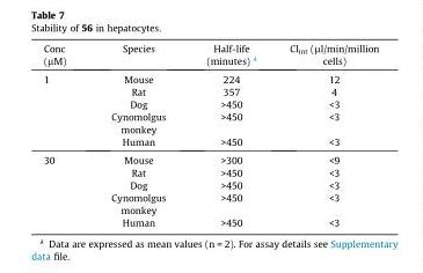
<table><thead><tr><td>Conc (μM)</td><td>Species</td><td>Half-life (minutes) a</td><td>Cl<sub>int</sub> (μl/min/million cells)</td></tr></thead><tbody><tr><td rowspan="5">1</td><td>Mouse</td><td>224</td><td>12</td></tr><tr><td>Rat</td><td>357</td><td>4</td></tr><tr><td>Dog</td><td>&gt;450</td><td>&lt;3</td></tr><tr><td>Cynomolgus monkey</td><td>&gt;450</td><td>&lt;3</td></tr><tr><td>Human</td><td>&gt;450</td><td>&lt;3</td></tr><tr><td rowspan="5">30</td><td>Mouse</td><td>&gt;300</td><td>&lt;9</td></tr><tr><td>Rat</td><td>&gt;450</td><td>&lt;3</td></tr><tr><td>Dog</td><td>&gt;450</td><td>&lt;3</td></tr><tr><td>Cynomolgus monkey</td><td>&gt;450</td><td>&lt;3</td></tr><tr><td>Human</td><td>&gt;450</td><td>&lt;3</td></tr></tbody></table>